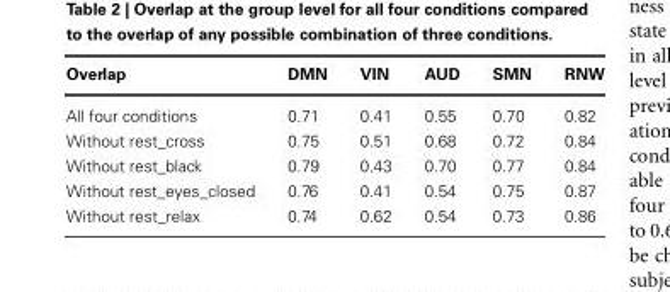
<table><thead><tr><td>Overlap</td><td>DMN</td><td>VIN</td><td>AUD</td><td>SMN</td><td>RNW</td></tr></thead><tbody><tr><td>All four conditions</td><td>0.71</td><td>0.41</td><td>0.55</td><td>0.70</td><td>0.82</td></tr><tr><td>Without rest_cross</td><td>0.75</td><td>0.51</td><td>0.68</td><td>0.72</td><td>0.84</td></tr><tr><td>Without rest_black</td><td>0.79</td><td>0.43</td><td>0.70</td><td>0.77</td><td>0.84</td></tr><tr><td>Without rest_eyes_closed</td><td>0.76</td><td>0.41</td><td>0.54</td><td>0.75</td><td>0.87</td></tr><tr><td>Without rest_relax</td><td>0.74</td><td>0.62</td><td>0.54</td><td>0.73</td><td>0.86</td></tr></tbody></table>